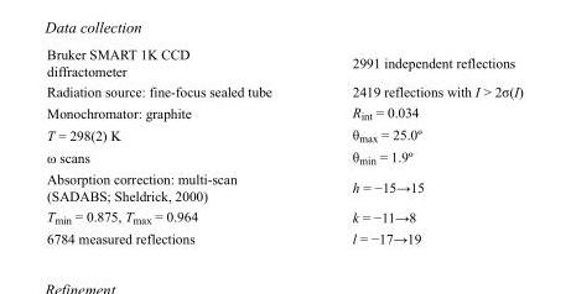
<table><tbody><tr><td>Bruker SMART 1K CCD diffractometer</td><td>2991 independent reflections</td></tr><tr><td>Radiation source: fine-focus sealed tube</td><td>2419 reflections with I &gt; 2σ(I)</td></tr><tr><td>Monochromator: graphite</td><td>R<sub>int</sub> = 0.034</td></tr><tr><td>T = 298(2) K</td><td>θ<sub>max</sub> = 25.0º</td></tr><tr><td>ω scans</td><td>θ<sub>min</sub> = 1.9º</td></tr><tr><td>Absorption correction: multi-scan (SADABS; Sheldrick, 2000)</td><td>h = −15→15</td></tr><tr><td>T<sub>min</sub> = 0.875, T<sub>max</sub> = 0.964</td><td>k = −11→8</td></tr><tr><td>6784 measured reflections</td><td>l = −17→19</td></tr></tbody></table>